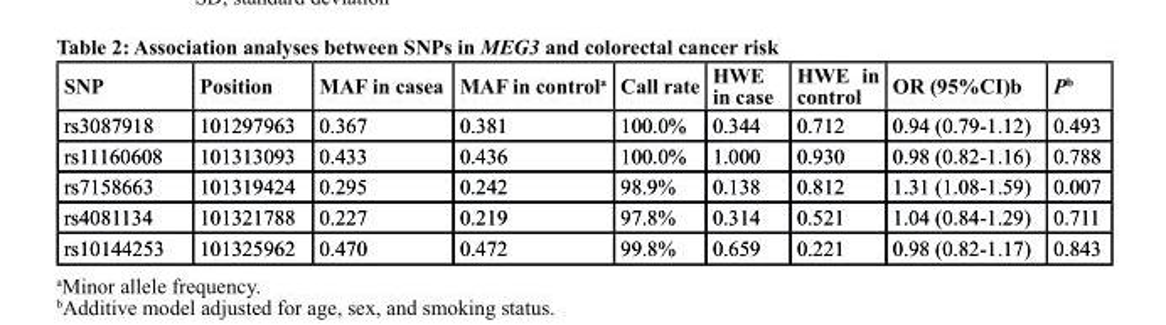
<table><thead><tr><td>snP</td><td>Position</td><td>MAF in casea</td><td>MAF in control<sup>a</sup></td><td>call rate</td><td>HWe in case</td><td>HWe in control</td><td>or (95%cI)<sup>b</sup></td><td>P<sup>b</sup></td></tr></thead><tbody><tr><td>rs3087918</td><td>101297963</td><td>0.367</td><td>0.381</td><td>100.0%</td><td>0.344</td><td>0.712</td><td>0.94 (0.79-1.12)</td><td>0.493</td></tr><tr><td>rs11160608</td><td>101313093</td><td>0.433</td><td>0.436</td><td>100.0%</td><td>1.000</td><td>0.930</td><td>0.98 (0.82-1.16)</td><td>0.788</td></tr><tr><td>rs7158663</td><td>101319424</td><td>0.295</td><td>0.242</td><td>98.9%</td><td>0.138</td><td>0.812</td><td>1.31 (1.08-1.59)</td><td>0.007</td></tr><tr><td>rs4081134</td><td>101321788</td><td>0.227</td><td>0.219</td><td>97.8%</td><td>0.314</td><td>0.521</td><td>1.04 (0.84-1.29)</td><td>0.711</td></tr><tr><td>rs10144253</td><td>101325962</td><td>0.470</td><td>0.472</td><td>99.8%</td><td>0.659</td><td>0.221</td><td>0.98 (0.82-1.17)</td><td>0.843</td></tr></tbody></table>